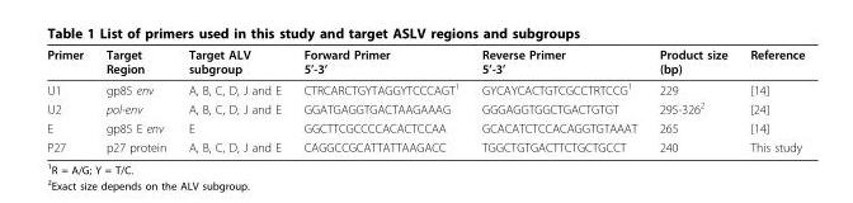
<table><thead><tr><td>Primer</td><td>Target Region</td><td>Target ALV subgroup</td><td>Forward Primer 5’-3’</td><td>Reverse Primer 5’-3’</td><td>Product size (bp)</td><td>Reference</td></tr></thead><tbody><tr><td>U1</td><td>gp85 env</td><td>A, B, C, D, J and E</td><td>CTRCARCTGYTAGGYTCCCAGT<sup>1</sup></td><td>GYCAYCACTGTCGCCTRTCCG<sup>1</sup></td><td>229</td><td>[14]</td></tr><tr><td>U2</td><td>pol-env</td><td>A, B, C, D, J and E</td><td>GGATGAGGTGACTAAGAAAG</td><td>GGGAGGTGGCTGACTGTGT</td><td>295-326<sup>2</sup></td><td>[24]</td></tr><tr><td>E</td><td>gp85 E env</td><td>E</td><td>GGCTTCGCCCCACACTCCAA</td><td>GCACATCTCCACAGGTGTAAAT</td><td>265</td><td>[14]</td></tr><tr><td>P27</td><td>p27 protein</td><td>A, B, C, D, J and E</td><td>CAGGCCGCATTATTAAGACC</td><td>TGGCTGTGACTTCTGCTGCCT</td><td>240</td><td>This study</td></tr></tbody></table>